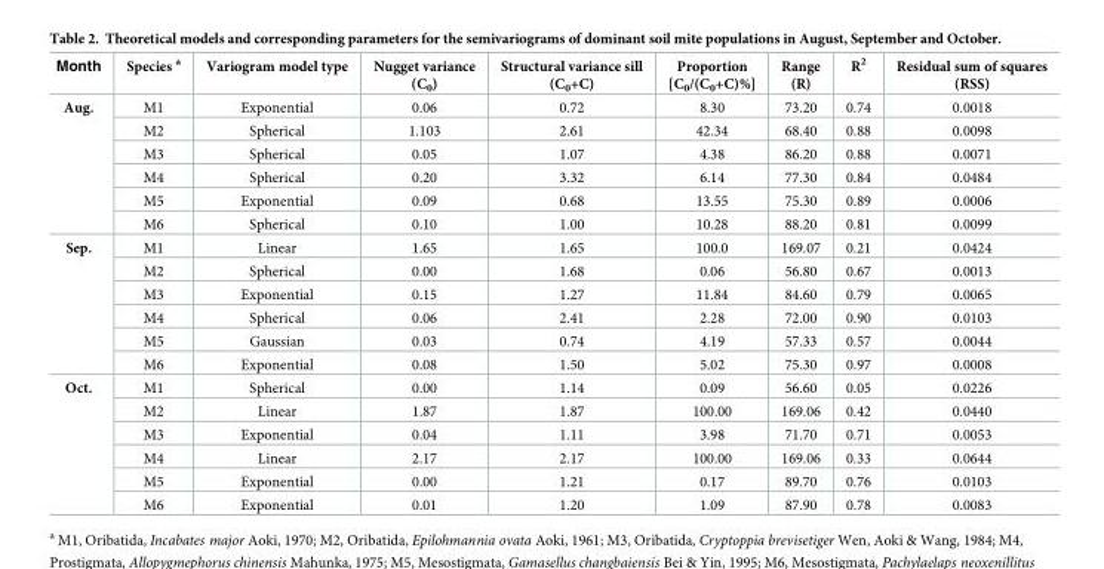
<table><thead><tr><td>Month</td><td>Species <sup>a</sup></td><td>Variogram model type</td><td>Nugget variance (C<sub>0</sub>)</td><td>Structural variance sill (C<sub>0</sub>+C)</td><td>Proportion [C<sub>0</sub>/(C<sub>0</sub>+C)%]</td><td>Range (R)</td><td>R<sup>2</sup></td><td>Residual sum of squares (RSS)</td></tr></thead><tbody><tr><td rowspan="6">Aug.</td><td>M1</td><td>Exponential</td><td>0.06</td><td>0.72</td><td>8.30</td><td>73.20</td><td>0.74</td><td>0.0018</td></tr><tr><td>M2</td><td>Spherical</td><td>1.103</td><td>2.61</td><td>42.34</td><td>68.40</td><td>0.88</td><td>0.0098</td></tr><tr><td>M3</td><td>Spherical</td><td>0.05</td><td>1.07</td><td>4.38</td><td>86.20</td><td>0.88</td><td>0.0071</td></tr><tr><td>M4</td><td>Spherical</td><td>0.20</td><td>3.32</td><td>6.14</td><td>77.30</td><td>0.84</td><td>0.0484</td></tr><tr><td>M5</td><td>Exponential</td><td>0.09</td><td>0.68</td><td>13.55</td><td>75.30</td><td>0.89</td><td>0.0006</td></tr><tr><td>M6</td><td>Spherical</td><td>0.10</td><td>1.00</td><td>10.28</td><td>88.20</td><td>0.81</td><td>0.0099</td></tr><tr><td rowspan="6">Sep.</td><td>M1</td><td>Linear</td><td>1.65</td><td>1.65</td><td>100.0</td><td>169.07</td><td>0.21</td><td>0.0424</td></tr><tr><td>M2</td><td>Spherical</td><td>0.00</td><td>1.68</td><td>0.06</td><td>56.80</td><td>0.67</td><td>0.0013</td></tr><tr><td>M3</td><td>Exponential</td><td>0.15</td><td>1.27</td><td>11.84</td><td>84.60</td><td>0.79</td><td>0.0065</td></tr><tr><td>M4</td><td>Spherical</td><td>0.06</td><td>2.41</td><td>2.28</td><td>72.00</td><td>0.90</td><td>0.0103</td></tr><tr><td>M5</td><td>Gaussian</td><td>0.03</td><td>0.74</td><td>4.19</td><td>57.33</td><td>0.57</td><td>0.0044</td></tr><tr><td>M6</td><td>Exponential</td><td>0.08</td><td>1.50</td><td>5.02</td><td>75.30</td><td>0.97</td><td>0.0008</td></tr><tr><td rowspan="6">Oct.</td><td>M1</td><td>Spherical</td><td>0.00</td><td>1.14</td><td>0.09</td><td>56.60</td><td>0.05</td><td>0.0226</td></tr><tr><td>M2</td><td>Linear</td><td>1.87</td><td>1.87</td><td>100.00</td><td>169.06</td><td>0.42</td><td>0.0440</td></tr><tr><td>M3</td><td>Exponential</td><td>0.04</td><td>1.11</td><td>3.98</td><td>71.70</td><td>0.71</td><td>0.0053</td></tr><tr><td>M4</td><td>Linear</td><td>2.17</td><td>2.17</td><td>100.00</td><td>169.06</td><td>0.33</td><td>0.0644</td></tr><tr><td>M5</td><td>Exponential</td><td>0.00</td><td>1.21</td><td>0.17</td><td>89.70</td><td>0.76</td><td>0.0103</td></tr><tr><td>M6</td><td>Exponential</td><td>0.01</td><td>1.20</td><td>1.09</td><td>87.90</td><td>0.78</td><td>0.0083</td></tr></tbody></table>